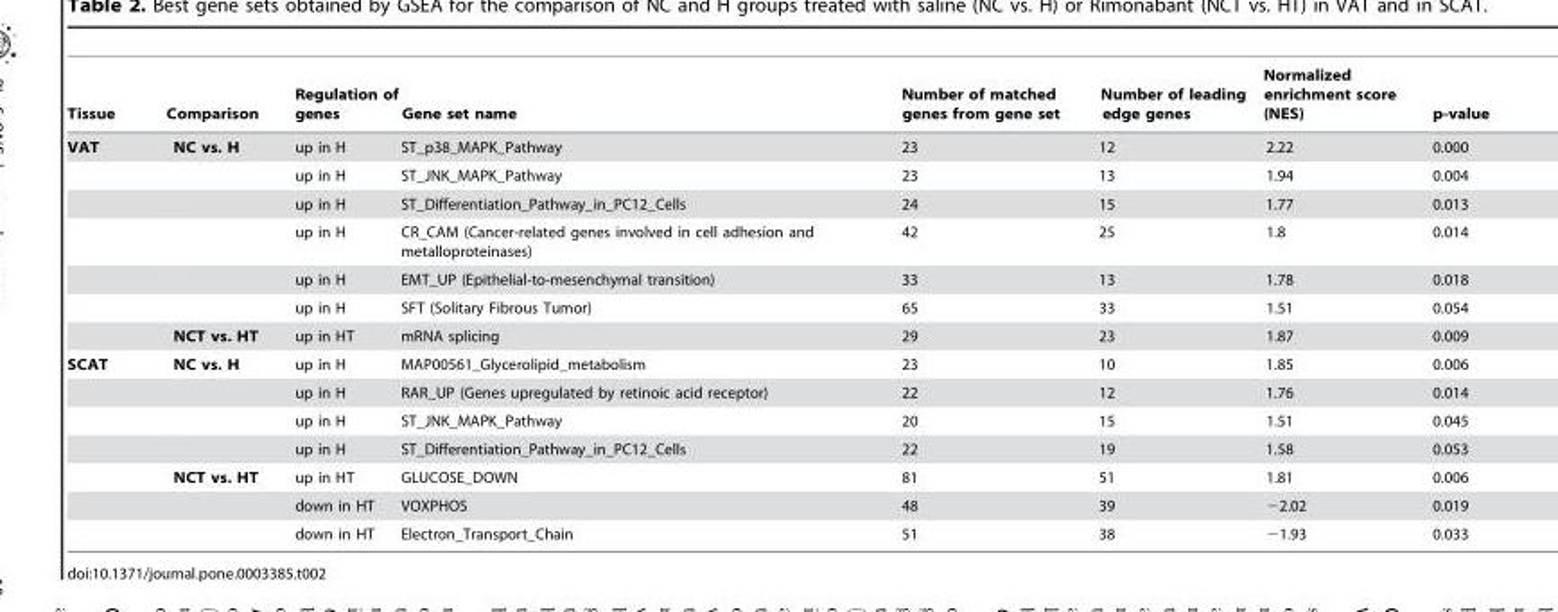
<table><thead><tr><td>Tissue</td><td>Comparison</td><td>Regulation of genes</td><td>Gene set name</td><td>Number of matched genes from gene set</td><td>Number of leading edge genes</td><td>Normalized enrichment score (NES)</td><td>p-value</td></tr></thead><tbody><tr><td rowspan="7">VAT</td><td>NC vs. H</td><td>up in H</td><td>ST_p38_MAPK_Pathway</td><td>23</td><td>12</td><td>2.22</td><td>0.000</td></tr><tr><td></td><td>up in H</td><td>ST_JNK_MAPK_Pathway</td><td>23</td><td>13</td><td>1.94</td><td>0.004</td></tr><tr><td></td><td>up in H</td><td>ST_Differentiation_Pathway_in_PC12_Cells</td><td>24</td><td>15</td><td>1.77</td><td>0.013</td></tr><tr><td></td><td>up in H</td><td>CR_CAM (Cancer-related genes involved in cell adhesion and metalloproteinases)</td><td>42</td><td>25</td><td>1.8</td><td>0.014</td></tr><tr><td></td><td>up in H</td><td>EMT_UP (Epithelial-to-mesenchymal transition)</td><td>33</td><td>13</td><td>1.78</td><td>0.018</td></tr><tr><td></td><td>up in H</td><td>SFT (Solitary Fibrous Tumor)</td><td>65</td><td>33</td><td>1.51</td><td>0.054</td></tr><tr><td>NCT vs. HT</td><td>up in HT</td><td>mRNA splicing</td><td>29</td><td>23</td><td>1.87</td><td>0.009</td></tr><tr><td rowspan="7">SCAT</td><td>NC vs. H</td><td>up in H</td><td>MAP00561_Glycerolipid_metabolism</td><td>23</td><td>10</td><td>1.85</td><td>0.006</td></tr><tr><td></td><td>up in H</td><td>RAR_UP (Genes upregulated by retinoic acid receptor)</td><td>22</td><td>12</td><td>1.76</td><td>0.014</td></tr><tr><td></td><td>up in H</td><td>ST_JNK_MAPK_Pathway</td><td>20</td><td>15</td><td>1.51</td><td>0.045</td></tr><tr><td></td><td>up in H</td><td>ST_Differentiation_Pathway_in_PC12_Cells</td><td>22</td><td>19</td><td>1.58</td><td>0.053</td></tr><tr><td>NCT vs. HT</td><td>up in HT</td><td>GLUCOSE_DOWN</td><td>81</td><td>51</td><td>1.81</td><td>0.006</td></tr><tr><td></td><td>down in HT</td><td>VOXPHOS</td><td>48</td><td>39</td><td>−2.02</td><td>0.019</td></tr><tr><td></td><td>down in HT</td><td>Electron_Transport_Chain</td><td>51</td><td>38</td><td>−1.93</td><td>0.033</td></tr></tbody></table>